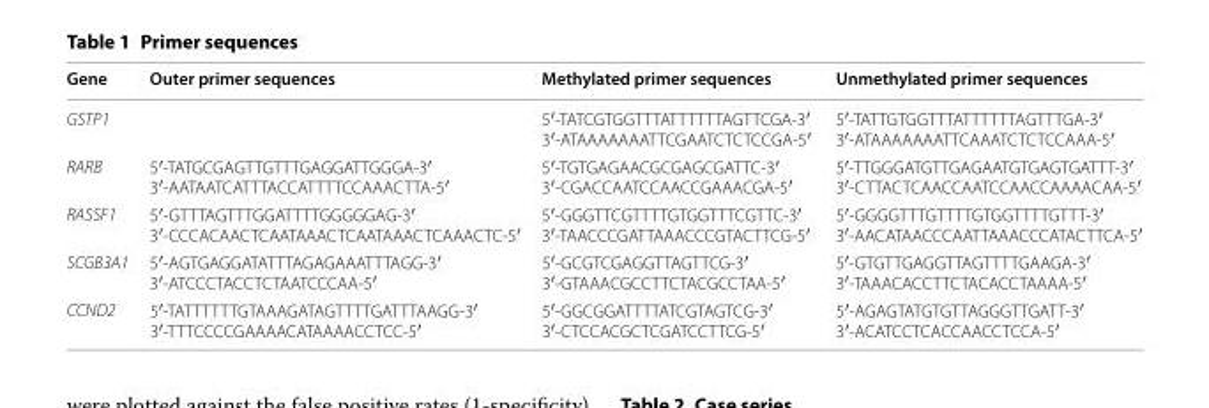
<table><thead><tr><td>Gene</td><td>Outer primer sequences</td><td>Methylated primer sequences</td><td>Unmethylated primer sequences</td></tr></thead><tbody><tr><td>GSTP1</td><td></td><td>5′-TATCGTGGTTTATTTTTTAGTTCGA-3′ 3′-ATAAAAAAATTCGAATCTCTCCGA-5′</td><td>5′-TATTGTGGTTTATTTTTTAGTTTGA-3′ 3′-ATAAAAAAATTCAAATCTCTCCAAA-5′</td></tr><tr><td>RARB</td><td>5′-TATGCGAGTTGTTTGAGGATTGGGA-3′ 3′-AATAATCATTTACCATTTTCCAAACTTA-5′</td><td>5′-TGTGAGAACGCGAGCGATTC-3′ 3′-CGACCAATCCAACCGAAACGA-5′</td><td>5′-TTGGGATGTTGAGAATGTGAGTGATTT-3′ 3′-CTTACTCAACCAATCCAACCAAAACAA-5′</td></tr><tr><td>RASSF1</td><td>5′-GTTTAGTTTGGATTTTGGGGGAG-3′ 3′-CCCACAACTCAATAAACTCAATAAACTCAAACTC-5′</td><td>5′-GGGTTCGTTTTGTGGTTTCGTTC-3′ 3′-TAACCCGATTAAACCCGTACTTCG-5′</td><td>5′-GGGGTTTGTTTTGTGGTTTTGTTT-3′ 3′-AACATAACCCAATTAAACCCATACTTCA-5′</td></tr><tr><td>SCGB3A1</td><td>5′-AGTGAGGATATTTAGAGAAATTTAGG-3′ 3′-ATCCCTACCTCTAATCCCAA-5′</td><td>5′-GCGTCGAGGTTAGTTCG-3′ 3′-GTAAACGCCTTCTACGCCTAA-5′</td><td>5′-GTGTTGAGGTTAGTTTTGAAGA-3′ 3′-TAAACACCTTCTACACCTAAAA-5′</td></tr><tr><td>CCND2</td><td>5′-TATTTTTTGTAAAGATAGTTTTGATTTAAGG-3′ 3′-TTTCCCCGAAAACATAAAACCTCC-5′</td><td>5′-GGCGGATTTTATCGTAGTCG-3′ 3′-CTCCACGCTCGATCCTTCG-5′</td><td>5′-AGAGTATGTGTTAGGGTTGATT-3′ 3′-ACATCCTCACCAACCTCCA-5′</td></tr></tbody></table>